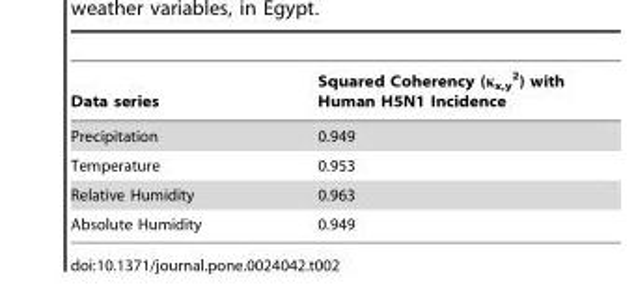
<table><thead><tr><td>Data series</td><td>Squared Coherency (κ<sub>x,y</sub> <sup>2</sup>) with Human H5N1 Incidence</td></tr></thead><tbody><tr><td>Precipitation</td><td>0.949</td></tr><tr><td>Temperature</td><td>0.953</td></tr><tr><td>Relative Humidity</td><td>0.963</td></tr><tr><td>Absolute Humidity</td><td>0.949</td></tr></tbody></table>